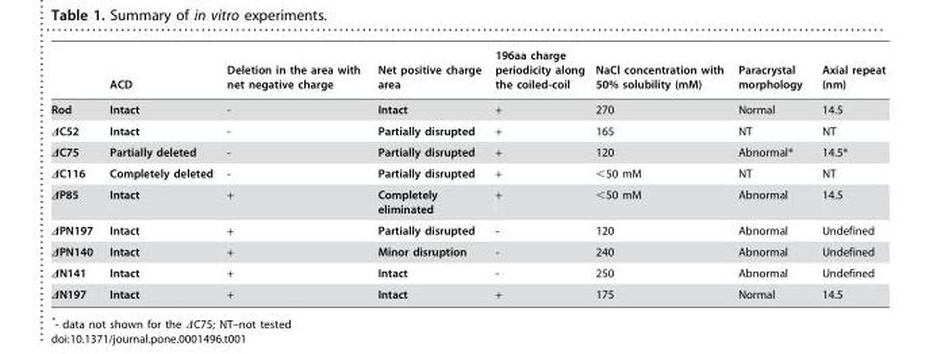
<table><thead><tr><td></td><td>ACD</td><td>Deletion in the area with net negative charge</td><td>Net positive charge area</td><td>196aa charge periodicity along the coiled-coil</td><td>NaCl concentration with 50% solubility (mM)</td><td>Paracrystal morphology</td><td>Axial repeat (nm)</td></tr></thead><tbody><tr><td>Rod</td><td>Intact</td><td>-</td><td>Intact</td><td>+</td><td>270</td><td>Normal</td><td>14.5</td></tr><tr><td>ΔC52</td><td>Intact</td><td>-</td><td>Partially disrupted</td><td>+</td><td>165</td><td>NT</td><td>NT</td></tr><tr><td>ΔC75</td><td>Partially deleted</td><td>-</td><td>Partially disrupted</td><td>+</td><td>120</td><td>Abnormal*</td><td>14.5*</td></tr><tr><td>ΔC116</td><td>Completely deleted</td><td>-</td><td>Partially disrupted</td><td>+</td><td>&lt;50 mM</td><td>NT</td><td>NT</td></tr><tr><td>ΔP85</td><td>Intact</td><td>+</td><td>Completely eliminated</td><td>+</td><td>&lt;50 mM</td><td>Abnormal</td><td>14.5</td></tr><tr><td>ΔPN197</td><td>Intact</td><td>+</td><td>Partially disrupted</td><td>-</td><td>120</td><td>Abnormal</td><td>Undefined</td></tr><tr><td>ΔPN140</td><td>Intact</td><td>+</td><td>Minor disruption</td><td>-</td><td>240</td><td>Abnormal</td><td>Undefined</td></tr><tr><td>ΔN141</td><td>Intact</td><td>+</td><td>Intact</td><td>-</td><td>250</td><td>Abnormal</td><td>Undefined</td></tr><tr><td>ΔN197</td><td>Intact</td><td>+</td><td>Intact</td><td>+</td><td>175</td><td>Normal</td><td>14.5</td></tr></tbody></table>